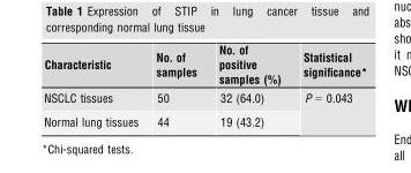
<table><thead><tr><td>Characteristic</td><td>No. of samples</td><td>No. of positive samples (%)</td><td>Statistical significance*</td></tr></thead><tbody><tr><td>NSCLC tissues</td><td>50</td><td>32 (64.0)</td><td rowspan="2">P = 0.043</td></tr><tr><td>Normal lung tissues</td><td>44</td><td>19 (43.2)</td></tr></tbody></table>